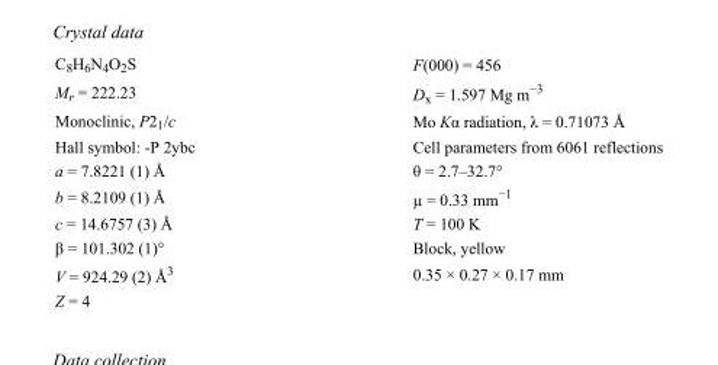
<table><tbody><tr><td>C<sub>8</sub>H<sub>6</sub>N<sub>4</sub>O<sub>2</sub>S</td><td>F(000) = 456</td></tr><tr><td>M<sub>r</sub> = 222.23</td><td>D<sub>x</sub> = 1.597 Mg m<sup>−3</sup></td></tr><tr><td>Monoclinic, P2<sub>1</sub>/c</td><td>Mo Kα radiation, λ = 0.71073 Å</td></tr><tr><td>Hall symbol: -P 2ybc</td><td>Cell parameters from 6061 reflections</td></tr><tr><td>a = 7.8221 (1) Å</td><td>θ = 2.7–32.7°</td></tr><tr><td>b = 8.2109 (1) Å</td><td>µ = 0.33 mm<sup>−1</sup></td></tr><tr><td>c = 14.6757 (3) Å</td><td>T = 100 K</td></tr><tr><td>β = 101.302 (1)°</td><td>Block, yellow</td></tr><tr><td>V = 924.29 (2) Å<sup>3</sup></td><td>0.35 × 0.27 × 0.17 mm</td></tr><tr><td>Z = 4</td><td></td></tr></tbody></table>